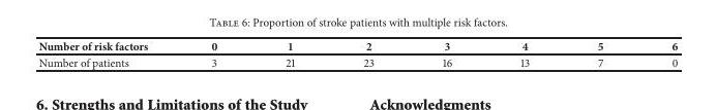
<table><thead><tr><td>Number of risk factors</td><td>0</td><td>1</td><td>2</td><td>3</td><td>4</td><td>5</td><td>6</td></tr></thead><tbody><tr><td>Number of patients</td><td>3</td><td>21</td><td>23</td><td>16</td><td>13</td><td>7</td><td>0</td></tr></tbody></table>